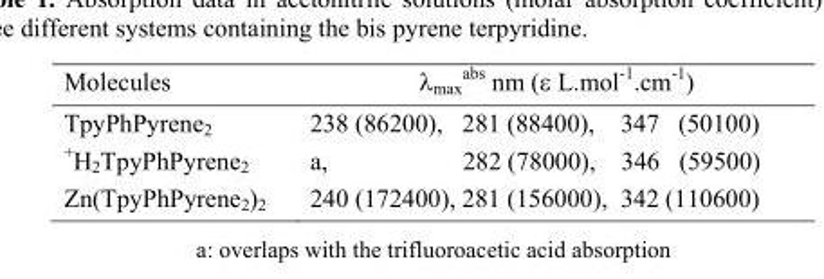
<table><thead><tr><td>Molecules</td><td>max abs nm (L.mol-1.cm-1)</td></tr></thead><tbody><tr><td>TpyPhPyrene<sub>2</sub></td><td>238 (86200), 281 (88400), 347 (50100)</td></tr><tr><td><sup>+</sup>H<sub>2</sub>TpyPhPyrene<sub>2</sub></td><td>a, 282 (78000), 346 (59500)</td></tr><tr><td>Zn(TpyPhPyrene<sub>2</sub>)<sub>2</sub></td><td>240 (172400), 281 (156000), 342 (110600)</td></tr></tbody></table>